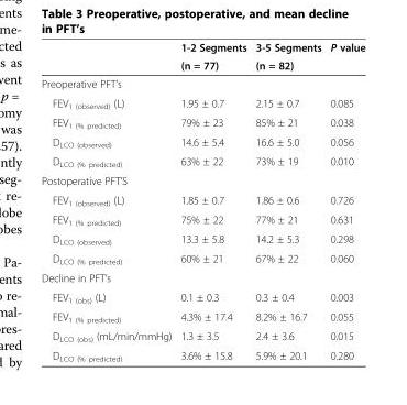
<table><thead><tr><td rowspan="2"></td><td rowspan="2">1-2 Segments (n = 77)</td><td rowspan="2">3-5 Segments (n = 82)</td><td rowspan="2">P value</td></tr><tr></tr></thead><tbody><tr><td colspan="4">Preoperative PFT’s</td></tr><tr><td>FEV<sub>1 (observed)</sub> (L)</td><td>1.95 ± 0.7</td><td>2.15 ± 0.7</td><td>0.085</td></tr><tr><td>FEV<sub>1 (% predicted)</sub></td><td>79% ± 23</td><td>85% ± 21</td><td>0.038</td></tr><tr><td>D<sub>LCO (observed)</sub></td><td>14.6 ± 5.4</td><td>16.6 ± 5.0</td><td>0.056</td></tr><tr><td>D<sub>LCO (% predicted)</sub></td><td>63% ± 22</td><td>73% ± 19</td><td>0.010</td></tr><tr><td colspan="4">Postoperative PFT’S</td></tr><tr><td>FEV<sub>1 (observed)</sub> (L)</td><td>1.85 ± 0.7</td><td>1.86 ± 0.6</td><td>0.726</td></tr><tr><td>FEV<sub>1 (% predicted)</sub></td><td>75% ± 22</td><td>77% ± 21</td><td>0.631</td></tr><tr><td>D<sub>LCO (observed)</sub></td><td>13.3 ± 5.8</td><td>14.2 ± 5.3</td><td>0.298</td></tr><tr><td>D<sub>LCO (% predicted)</sub></td><td>60% ± 21</td><td>67% ± 22</td><td>0.060</td></tr><tr><td colspan="4">Decline in PFT’s</td></tr><tr><td>FEV<sub>1 (obs)</sub> (L)</td><td>0.1 ± 0.3</td><td>0.3 ± 0.4</td><td>0.003</td></tr><tr><td>FEV<sub>1 (% predicted)</sub></td><td>4.3% ± 17.4</td><td>8.2% ± 16.7</td><td>0.055</td></tr><tr><td>D<sub>LCO (obs)</sub> (mL/min/mmHg)</td><td>1.3 ± 3.5</td><td>2.4 ± 3.6</td><td>0.015</td></tr><tr><td>D<sub>LCO (% predicted)</sub></td><td>3.6% ± 15.8</td><td>5.9% ± 20.1</td><td>0.280</td></tr></tbody></table>